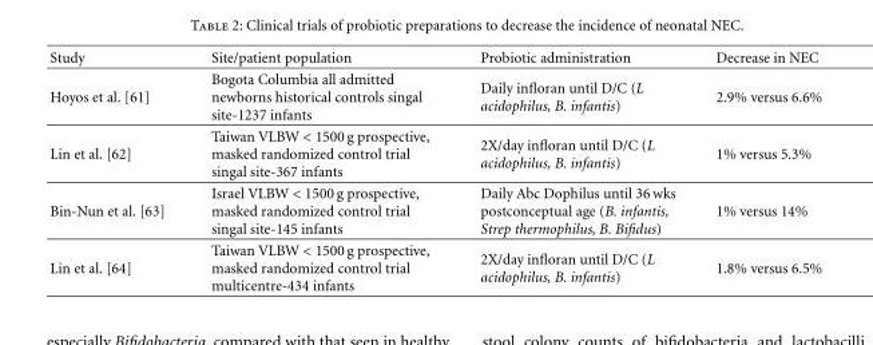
<table><thead><tr><td>Study</td><td>Site/patient population</td><td>Probiotic administration</td><td>Decrease in NEC</td></tr></thead><tbody><tr><td>Hoyos et al. [61]</td><td>Bogota Columbia all admitted newborns historical controls singal site-1237 infants</td><td>Daily infloran until D/C (L acidophilus, B. infantis)</td><td>2.9% versus 6.6%</td></tr><tr><td>Lin et al. [62]</td><td>Taiwan VLBW &lt; 1500 g prospective, masked randomized control trial singal site-367 infants</td><td>2X/day infloran until D/C (L acidophilus, B. infantis)</td><td>1% versus 5.3%</td></tr><tr><td>Bin-Nun et al. [63]</td><td>Israel VLBW &lt; 1500 g prospective, masked randomized control trial singal site-145 infants</td><td>Daily Abc Dophilus until 36 wks postconceptual age (B. infantis, Strep thermophilus, B. Bifidus)</td><td>1% versus 14%</td></tr><tr><td>Lin et al. [64]</td><td>Taiwan VLBW &lt; 1500 g prospective, masked randomized control trial multicentre-434 infants</td><td>2X/day infloran until D/C (L acidophilus, B. infantis)</td><td>1.8% versus 6.5%</td></tr></tbody></table>